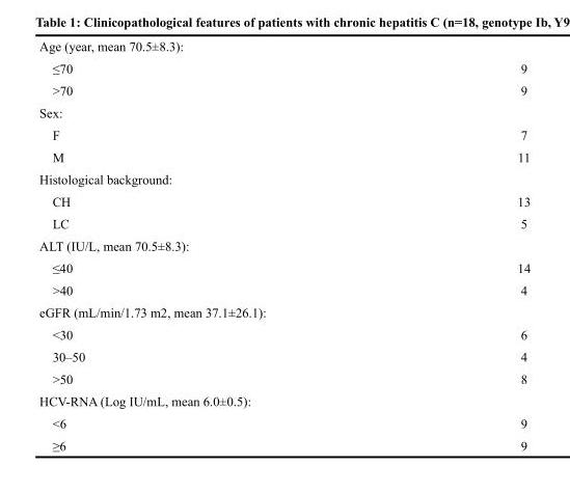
<table><tbody><tr><td colspan="2">Age (year, mean 70.5±8.3):</td></tr><tr><td>≤70</td><td>9</td></tr><tr><td>&gt;70</td><td>9</td></tr><tr><td colspan="2">Sex:</td></tr><tr><td>F</td><td>7</td></tr><tr><td>M</td><td>11</td></tr><tr><td colspan="2">Histological background:</td></tr><tr><td>CH</td><td>13</td></tr><tr><td>LC</td><td>5</td></tr><tr><td colspan="2">ALT (IU/L, mean 70.5±8.3):</td></tr><tr><td>≤40</td><td>14</td></tr><tr><td>&gt;40</td><td>4</td></tr><tr><td colspan="2">eGFR (mL/min/1.73 m2, mean 37.1±26.1):</td></tr><tr><td>&lt;30</td><td>6</td></tr><tr><td>30–50</td><td>4</td></tr><tr><td>&gt;50</td><td>8</td></tr><tr><td colspan="2">HCV-RNA (Log IU/mL, mean 6.0±0.5):</td></tr><tr><td>&lt;6</td><td>9</td></tr><tr><td>≥6</td><td>9</td></tr></tbody></table>